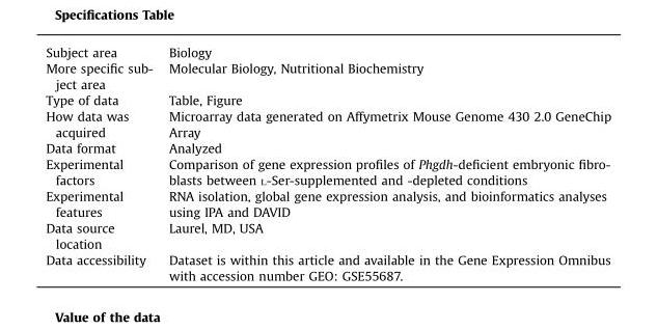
<table><tbody><tr><td>Subject area</td><td>Biology</td></tr><tr><td>More specific sub- ject area</td><td>Molecular Biology, Nutritional Biochemistry</td></tr><tr><td>Type of data</td><td>Table, Figure</td></tr><tr><td>How data was acquired</td><td>Microarray data generated on Affymetrix Mouse Genome 430 2.0 GeneChip Array</td></tr><tr><td>Data format</td><td>Analyzed</td></tr><tr><td>Experimental factors</td><td>Comparison of gene expression profiles of Phgdh-deficient embryonic fibro- blasts between ʟ-Ser-supplemented and -depleted conditions</td></tr><tr><td>Experimental features</td><td>RNA isolation, global gene expression analysis, and bioinformatics analyses using IPA and DAVID</td></tr><tr><td>Data source location</td><td>Laurel, MD, USA</td></tr><tr><td>Data accessibility</td><td>Dataset is within this article and available in the Gene Expression Omnibus with accession number GEO: GSE55687.</td></tr></tbody></table>